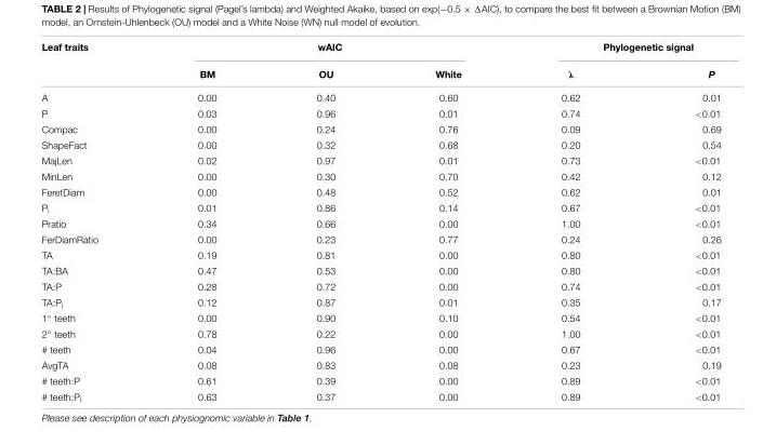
<table><thead><tr><td rowspan="2">Leaf traits</td><td colspan="3">wAIC</td><td colspan="2">Phylogenetic signal</td></tr><tr><td>BM</td><td>OU</td><td>White</td><td>λ</td><td>P</td></tr></thead><tbody><tr><td>A</td><td>0.00</td><td>0.40</td><td>0.60</td><td>0.62</td><td>0.01</td></tr><tr><td>P</td><td>0.03</td><td>0.96</td><td>0.01</td><td>0.74</td><td>&lt;0.01</td></tr><tr><td>Compac</td><td>0.00</td><td>0.24</td><td>0.76</td><td>0.09</td><td>0.69</td></tr><tr><td>ShapeFact</td><td>0.00</td><td>0.32</td><td>0.68</td><td>0.20</td><td>0.54</td></tr><tr><td>MajLen</td><td>0.02</td><td>0.97</td><td>0.01</td><td>0.73</td><td>&lt;0.01</td></tr><tr><td>MinLen</td><td>0.00</td><td>0.30</td><td>0.70</td><td>0.42</td><td>0.12</td></tr><tr><td>FeretDiam</td><td>0.00</td><td>0.48</td><td>0.52</td><td>0.62</td><td>0.01</td></tr><tr><td>P<sub>i</sub></td><td>0.01</td><td>0.86</td><td>0.14</td><td>0.67</td><td>&lt;0.01</td></tr><tr><td>Pratio</td><td>0.34</td><td>0.66</td><td>0.00</td><td>1.00</td><td>&lt;0.01</td></tr><tr><td>FerDiamRatio</td><td>0.00</td><td>0.23</td><td>0.77</td><td>0.24</td><td>0.26</td></tr><tr><td>TA</td><td>0.19</td><td>0.81</td><td>0.00</td><td>0.80</td><td>&lt;0.01</td></tr><tr><td>TA:BA</td><td>0.47</td><td>0.53</td><td>0.00</td><td>0.80</td><td>&lt;0.01</td></tr><tr><td>TA:P</td><td>0.28</td><td>0.72</td><td>0.00</td><td>0.74</td><td>&lt;0.01</td></tr><tr><td>TA:P<sub>i</sub></td><td>0.12</td><td>0.87</td><td>0.01</td><td>0.35</td><td>0.17</td></tr><tr><td>1◦ teeth</td><td>0.00</td><td>0.90</td><td>0.10</td><td>0.54</td><td>&lt;0.01</td></tr><tr><td>2◦ teeth</td><td>0.78</td><td>0.22</td><td>0.00</td><td>1.00</td><td>&lt;0.01</td></tr><tr><td># teeth</td><td>0.04</td><td>0.96</td><td>0.00</td><td>0.67</td><td>&lt;0.01</td></tr><tr><td>AvgTA</td><td>0.08</td><td>0.83</td><td>0.08</td><td>0.23</td><td>0.19</td></tr><tr><td># teeth:P</td><td>0.61</td><td>0.39</td><td>0.00</td><td>0.89</td><td>&lt;0.01</td></tr><tr><td># teeth:P<sub>i</sub></td><td>0.63</td><td>0.37</td><td>0.00</td><td>0.89</td><td>&lt;0.01</td></tr></tbody></table>